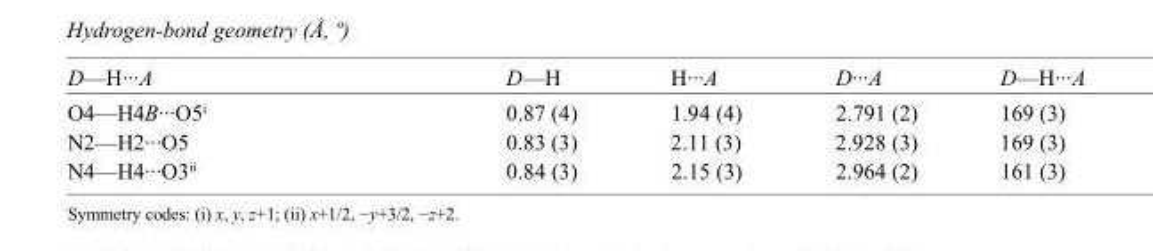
<table><tbody><tr><td>D—H···A</td><td>D—H</td><td>H···A</td><td>D···A</td><td>D—H···A</td></tr><tr><td>O4—H4B···O5<sup>i</sup></td><td>0.87 (4)</td><td>1.94 (4)</td><td>2.791 (2)</td><td>169 (3)</td></tr><tr><td>N2—H2···O5</td><td>0.83 (3)</td><td>2.11 (3)</td><td>2.928 (3)</td><td>169 (3)</td></tr><tr><td>N4—H4···O3<sup>ii</sup></td><td>0.84 (3)</td><td>2.15 (3)</td><td>2.964 (2)</td><td>161 (3)</td></tr></tbody></table>